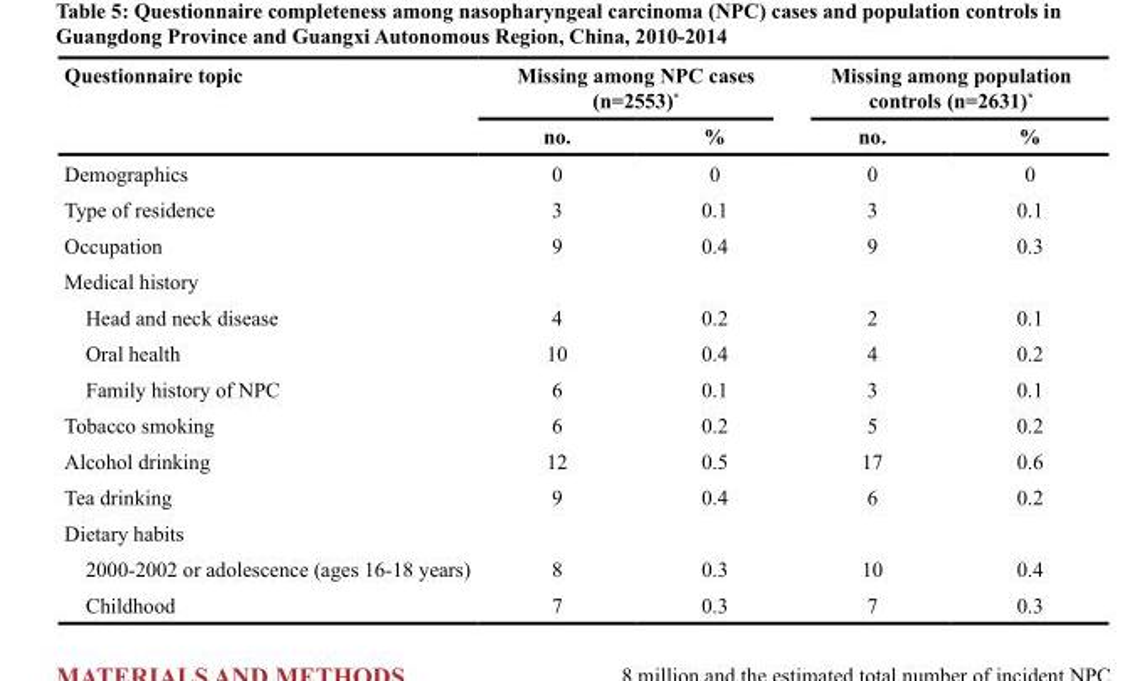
<table><thead><tr><td rowspan="2">Questionnaire topic</td><td colspan="2">Missing among NPC cases (n=2553)*</td><td colspan="2">Missing among population controls (n=2631)*</td></tr><tr><td>no.</td><td>%</td><td>no.</td><td>%</td></tr></thead><tbody><tr><td>Demographics</td><td>0</td><td>0</td><td>0</td><td>0</td></tr><tr><td>Type of residence</td><td>3</td><td>0.1</td><td>3</td><td>0.1</td></tr><tr><td>Occupation</td><td>9</td><td>0.4</td><td>9</td><td>0.3</td></tr><tr><td colspan="5">Medical history</td></tr><tr><td>Head and neck disease</td><td>4</td><td>0.2</td><td>2</td><td>0.1</td></tr><tr><td>Oral health</td><td>10</td><td>0.4</td><td>4</td><td>0.2</td></tr><tr><td>Family history of NPC</td><td>6</td><td>0.1</td><td>3</td><td>0.1</td></tr><tr><td>Tobacco smoking</td><td>6</td><td>0.2</td><td>5</td><td>0.2</td></tr><tr><td>Alcohol drinking</td><td>12</td><td>0.5</td><td>17</td><td>0.6</td></tr><tr><td>Tea drinking</td><td>9</td><td>0.4</td><td>6</td><td>0.2</td></tr><tr><td colspan="5">Dietary habits</td></tr><tr><td>2000-2002 or adolescence (ages 16-18 years)</td><td>8</td><td>0.3</td><td>10</td><td>0.4</td></tr><tr><td>Childhood</td><td>7</td><td>0.3</td><td>7</td><td>0.3</td></tr></tbody></table>